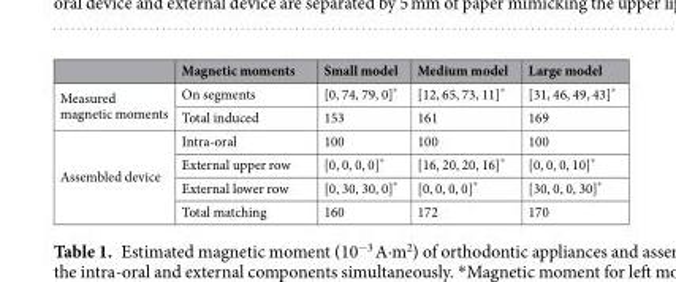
<table><thead><tr><td></td><td>Magnetic moments</td><td>Small model</td><td>Medium model</td><td>Large model</td></tr></thead><tbody><tr><td rowspan="2">Measured magnetic moments</td><td>On segments</td><td>[0, 74, 79, 0]*</td><td>[12, 65, 73, 11]*</td><td>[31, 46, 49, 43]*</td></tr><tr><td>Total induced</td><td>153</td><td>161</td><td>169</td></tr><tr><td rowspan="4">Assembled device</td><td>Intra-oral</td><td>100</td><td>100</td><td>100</td></tr><tr><td>External upper row</td><td>[0, 0, 0, 0]*</td><td>[16, 20, 20, 16]*</td><td>[0, 0, 0, 10]*</td></tr><tr><td>External lower row</td><td>[0, 30, 30, 0]*</td><td>[0, 0, 0, 0]*</td><td>[30, 0, 0, 30]*</td></tr><tr><td>Total matching</td><td>160</td><td>172</td><td>170</td></tr></tbody></table>